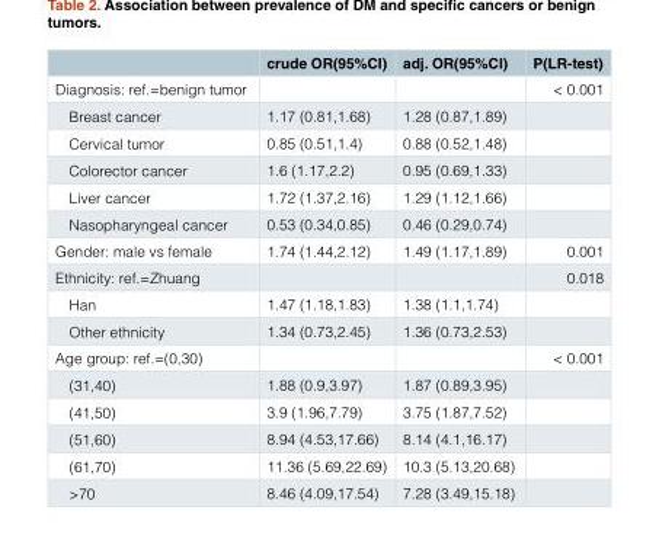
<table><thead><tr><td></td><td>crude OR(95%CI)</td><td>adj. OR(95%CI)</td><td>P(LR-test)</td></tr></thead><tbody><tr><td>Diagnosis: ref.=benign tumor</td><td></td><td></td><td>&lt; 0.001</td></tr><tr><td>Breast cancer</td><td>1.17 (0.81,1.68)</td><td>1.28 (0.87,1.89)</td><td></td></tr><tr><td>Cervical tumor</td><td>0.85 (0.51,1.4)</td><td>0.88 (0.52,1.48)</td><td></td></tr><tr><td>Colorector cancer</td><td>1.6 (1.17,2.2)</td><td>0.95 (0.69,1.33)</td><td></td></tr><tr><td>Liver cancer</td><td>1.72 (1.37,2.16)</td><td>1.29 (1.12,1.66)</td><td></td></tr><tr><td>Nasopharyngeal cancer</td><td>0.53 (0.34,0.85)</td><td>0.46 (0.29,0.74)</td><td></td></tr><tr><td>Gender: male vs female</td><td>1.74 (1.44,2.12)</td><td>1.49 (1.17,1.89)</td><td>0.001</td></tr><tr><td>Ethnicity: ref.=Zhuang</td><td></td><td></td><td>0.018</td></tr><tr><td>Han</td><td>1.47 (1.18,1.83)</td><td>1.38 (1.1,1.74)</td><td></td></tr><tr><td>Other ethnicity</td><td>1.34 (0.73,2.45)</td><td>1.36 (0.73,2.53)</td><td></td></tr><tr><td>Age group: ref.=(0,30)</td><td></td><td></td><td>&lt; 0.001</td></tr><tr><td>(31,40)</td><td>1.88 (0.9,3.97)</td><td>1.87 (0.89,3.95)</td><td></td></tr><tr><td>(41,50)</td><td>3.9 (1.96,7.79)</td><td>3.75 (1.87,7.52)</td><td></td></tr><tr><td>(51,60)</td><td>8.94 (4.53,17.66)</td><td>8.14 (4.1,16.17)</td><td></td></tr><tr><td>(61,70)</td><td>11.36 (5.69,22.69)</td><td>10.3 (5.13,20.68)</td><td></td></tr><tr><td>&gt;70</td><td>8.46 (4.09,17.54)</td><td>7.28 (3.49,15.18)</td><td></td></tr></tbody></table>